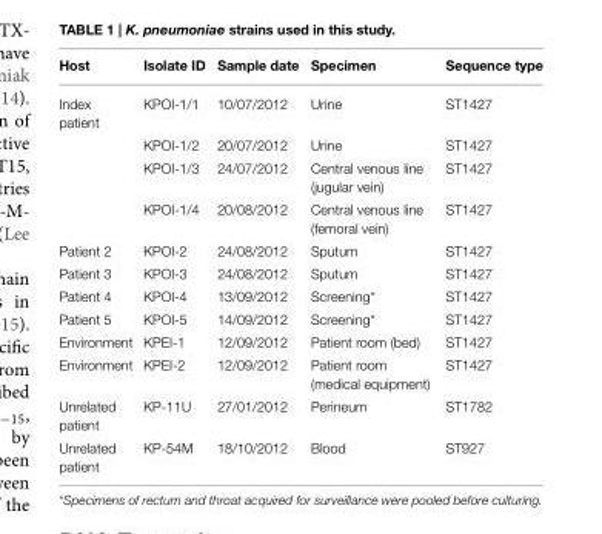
<table><thead><tr><td>Host</td><td>Isolate ID</td><td>Sample date</td><td>Specimen</td><td>Sequence type</td></tr></thead><tbody><tr><td rowspan="4">Index patient</td><td>KPOI-1/1</td><td>10/07/2012</td><td>Urine</td><td>ST1427</td></tr><tr><td>KPOI-1/2</td><td>20/07/2012</td><td>Urine</td><td>ST1427</td></tr><tr><td>KPOI-1/3</td><td>24/07/2012</td><td>Central venous line (jugular vein)</td><td>ST1427</td></tr><tr><td>KPOI-1/4</td><td>20/08/2012</td><td>Central venous line (femoral vein)</td><td>ST1427</td></tr><tr><td>Patient 2</td><td>KPOI-2</td><td>24/08/2012</td><td>Sputum</td><td>ST1427</td></tr><tr><td>Patient 3</td><td>KPOI-3</td><td>24/08/2012</td><td>Sputum</td><td>ST1427</td></tr><tr><td>Patient 4</td><td>KPOI-4</td><td>13/09/2012</td><td>Screening*</td><td>ST1427</td></tr><tr><td>Patient 5</td><td>KPOI-5</td><td>14/09/2012</td><td>Screening*</td><td>ST1427</td></tr><tr><td>Environment</td><td>KPEI-1</td><td>12/09/2012</td><td>Patient room (bed)</td><td>ST1427</td></tr><tr><td>Environment</td><td>KPEI-2</td><td>12/09/2012</td><td>Patient room (medical equipment)</td><td>ST1427</td></tr><tr><td>Unrelated patient</td><td>KP-11U</td><td>27/01/2012</td><td>Perineum</td><td>ST1782</td></tr><tr><td>Unrelated patient</td><td>KP-54M</td><td>18/10/2012</td><td>Blood</td><td>ST927</td></tr></tbody></table>